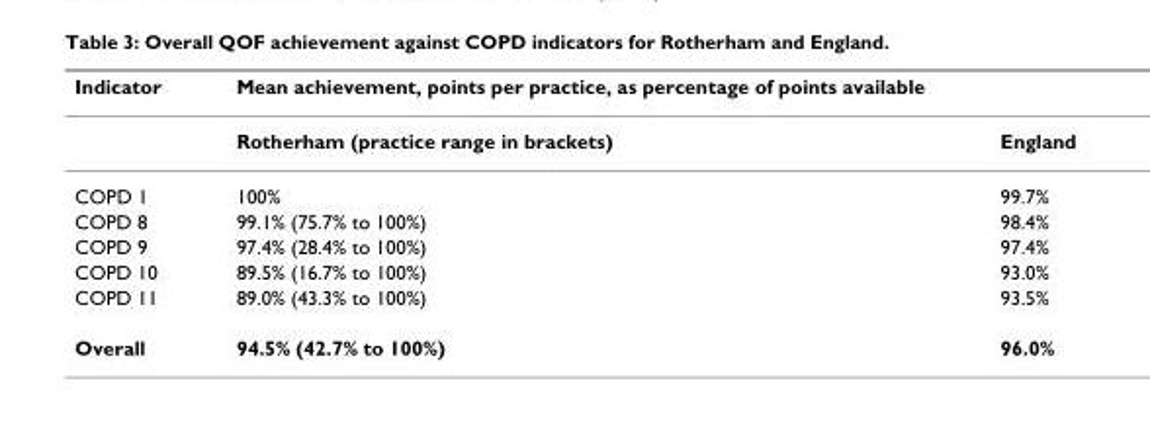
<table><thead><tr><td rowspan="2">Indicator</td><td colspan="2">Mean achievement, points per practice, as percentage of points available</td></tr><tr><td>Rotherham (practice range in brackets)</td><td>England</td></tr></thead><tbody><tr><td>COPD 1</td><td>100%</td><td>99.7%</td></tr><tr><td>COPD 8</td><td>99.1% (75.7% to 100%)</td><td>98.4%</td></tr><tr><td>COPD 9</td><td>97.4% (28.4% to 100%)</td><td>97.4%</td></tr><tr><td>COPD 10</td><td>89.5% (16.7% to 100%)</td><td>93.0%</td></tr><tr><td>COPD 11</td><td>89.0% (43.3% to 100%)</td><td>93.5%</td></tr><tr><td>Overall</td><td>94.5% (42.7% to 100%)</td><td>96.0%</td></tr></tbody></table>